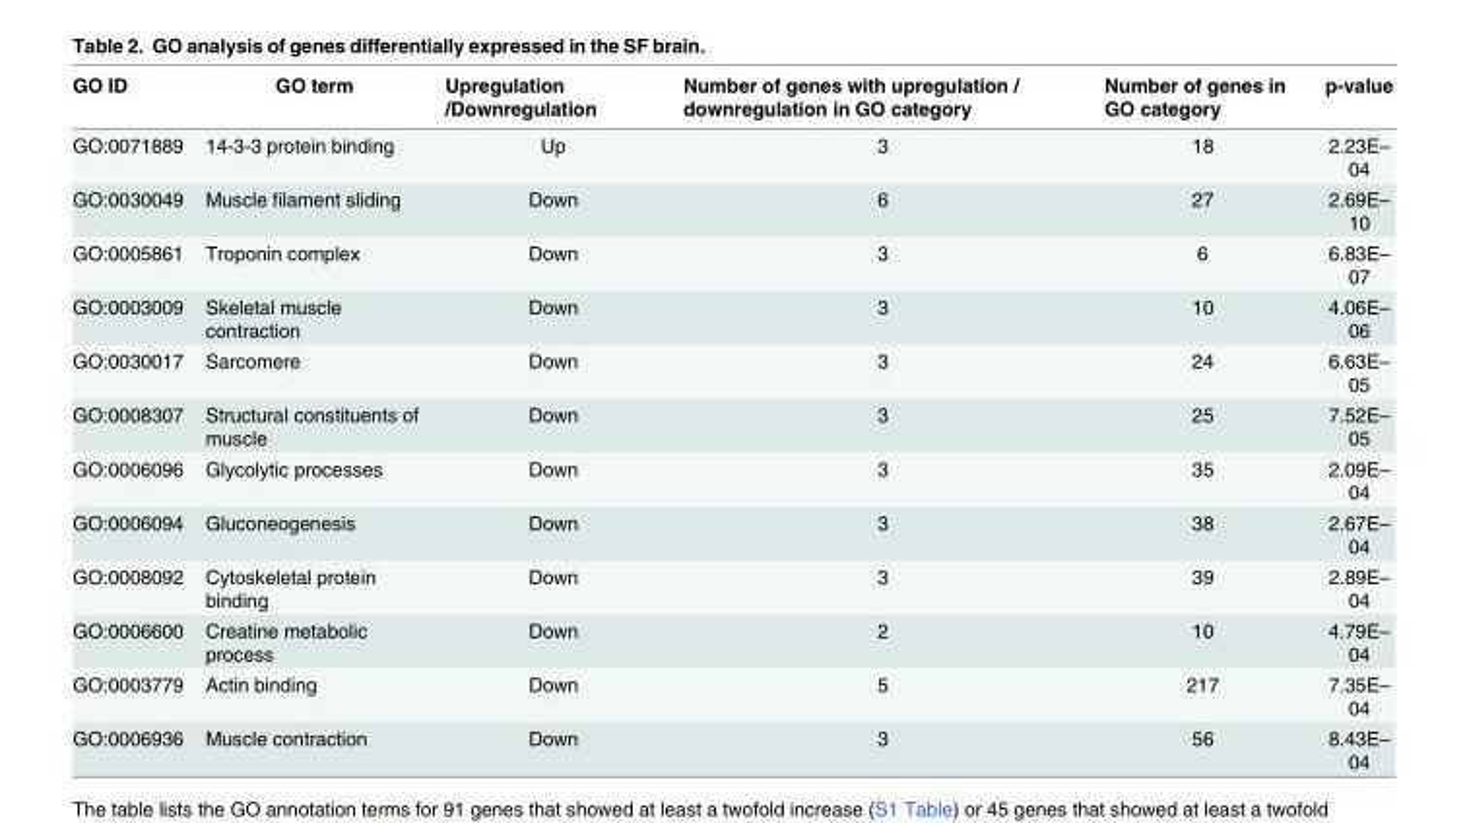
<table><thead><tr><td>GO ID</td><td>GO term</td><td>Upregulation /Downregulation</td><td>Number of genes with upregulation / downregulation in GO category</td><td>Number of genes in GO category</td><td>p-value</td></tr></thead><tbody><tr><td>GO:0071889</td><td>14-3-3 protein binding</td><td>Up</td><td>3</td><td>18</td><td>2.23E– 04</td></tr><tr><td>GO:0030049</td><td>Muscle filament sliding</td><td>Down</td><td>6</td><td>27</td><td>2.69E– 10</td></tr><tr><td>GO:0005861</td><td>Troponin complex</td><td>Down</td><td>3</td><td>6</td><td>6.83E– 07</td></tr><tr><td>GO:0003009</td><td>Skeletal muscle contraction</td><td>Down</td><td>3</td><td>10</td><td>4.06E– 06</td></tr><tr><td>GO:0030017</td><td>Sarcomere</td><td>Down</td><td>3</td><td>24</td><td>6.63E– 05</td></tr><tr><td>GO:0008307</td><td>Structural constituents of muscle</td><td>Down</td><td>3</td><td>25</td><td>7.52E– 05</td></tr><tr><td>GO:0006096</td><td>Glycolytic processes</td><td>Down</td><td>3</td><td>35</td><td>2.09E– 04</td></tr><tr><td>GO:0006094</td><td>Gluconeogenesis</td><td>Down</td><td>3</td><td>38</td><td>2.67E– 04</td></tr><tr><td>GO:0008092</td><td>Cytoskeletal protein binding</td><td>Down</td><td>3</td><td>39</td><td>2.89E– 04</td></tr><tr><td>GO:0006600</td><td>Creatine metabolic process</td><td>Down</td><td>2</td><td>10</td><td>4.79E– 04</td></tr><tr><td>GO:0003779</td><td>Actin binding</td><td>Down</td><td>5</td><td>217</td><td>7.35E– 04</td></tr><tr><td>GO:0006936</td><td>Muscle contraction</td><td>Down</td><td>3</td><td>56</td><td>8.43E–</td></tr></tbody></table>